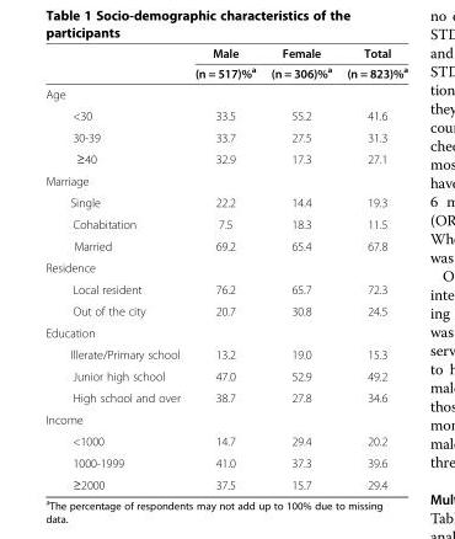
<table><thead><tr><td></td><td>Male</td><td>Female</td><td>Total</td></tr></thead><tbody><tr><td></td><td>(n = 517)%<sup>a</sup></td><td>(n = 306)%<sup>a</sup></td><td>(n = 823)%<sup>a</sup></td></tr><tr><td colspan="4">Age</td></tr><tr><td>&lt;30</td><td>33.5</td><td>55.2</td><td>41.6</td></tr><tr><td>30-39</td><td>33.7</td><td>27.5</td><td>31.3</td></tr><tr><td>≥40</td><td>32.9</td><td>17.3</td><td>27.1</td></tr><tr><td colspan="4">Marriage</td></tr><tr><td>Single</td><td>22.2</td><td>14.4</td><td>19.3</td></tr><tr><td>Cohabitation</td><td>7.5</td><td>18.3</td><td>11.5</td></tr><tr><td>Married</td><td>69.2</td><td>65.4</td><td>67.8</td></tr><tr><td colspan="4">Residence</td></tr><tr><td>Local resident</td><td>76.2</td><td>65.7</td><td>72.3</td></tr><tr><td>Out of the city</td><td>20.7</td><td>30.8</td><td>24.5</td></tr><tr><td colspan="4">Education</td></tr><tr><td>Illerate/Primary school</td><td>13.2</td><td>19.0</td><td>15.3</td></tr><tr><td>Junior high school</td><td>47.0</td><td>52.9</td><td>49.2</td></tr><tr><td>High school and over</td><td>38.7</td><td>27.8</td><td>34.6</td></tr><tr><td colspan="4">Income</td></tr><tr><td>&lt;1000</td><td>14.7</td><td>29.4</td><td>20.2</td></tr><tr><td>1000-1999</td><td>41.0</td><td>37.3</td><td>39.6</td></tr><tr><td>≥2000</td><td>37.5</td><td>15.7</td><td>29.4</td></tr></tbody></table>